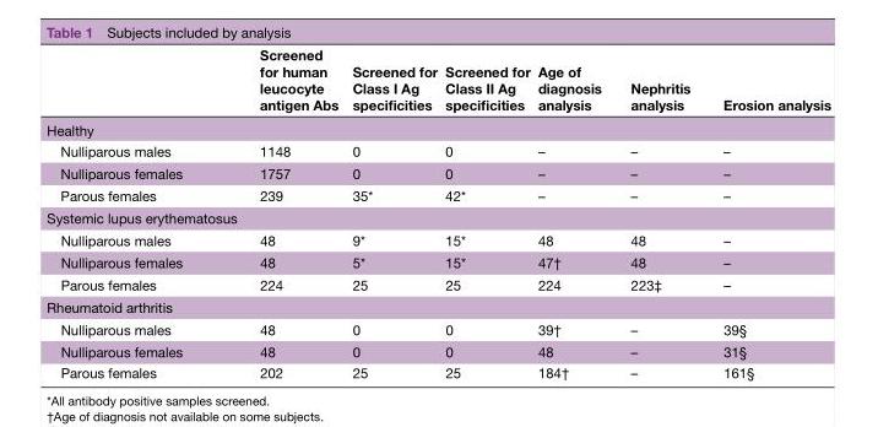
<table><thead><tr><td></td><td>Screened for human leucocyte antigen Abs</td><td>Screened for Class I Ag specificities</td><td>Screened for Class II Ag specificities</td><td>Age of diagnosis analysis</td><td>Nephritis analysis</td><td>Erosion analysis</td></tr></thead><tbody><tr><td colspan="7">Healthy</td></tr><tr><td>Nulliparous males</td><td>1148</td><td>0</td><td>0</td><td>–</td><td>–</td><td>–</td></tr><tr><td>Nulliparous females</td><td>1757</td><td>0</td><td>0</td><td>–</td><td>–</td><td>–</td></tr><tr><td>Parous females</td><td>239</td><td>35*</td><td>42*</td><td>–</td><td>–</td><td>–</td></tr><tr><td colspan="7">Systemic lupus erythematosus</td></tr><tr><td>Nulliparous males</td><td>48</td><td>9*</td><td>15*</td><td>48</td><td>48</td><td>–</td></tr><tr><td>Nulliparous females</td><td>48</td><td>5*</td><td>15*</td><td>47†</td><td>48</td><td>–</td></tr><tr><td>Parous females</td><td>224</td><td>25</td><td>25</td><td>224</td><td>223‡</td><td>–</td></tr><tr><td colspan="7">Rheumatoid arthritis</td></tr><tr><td>Nulliparous males</td><td>48</td><td>0</td><td>0</td><td>39†</td><td>–</td><td>39§</td></tr><tr><td>Nulliparous females</td><td>48</td><td>0</td><td>0</td><td>48</td><td>–</td><td>31§</td></tr><tr><td>Parous females</td><td>202</td><td>25</td><td>25</td><td>184†</td><td>–</td><td>161§</td></tr></tbody></table>